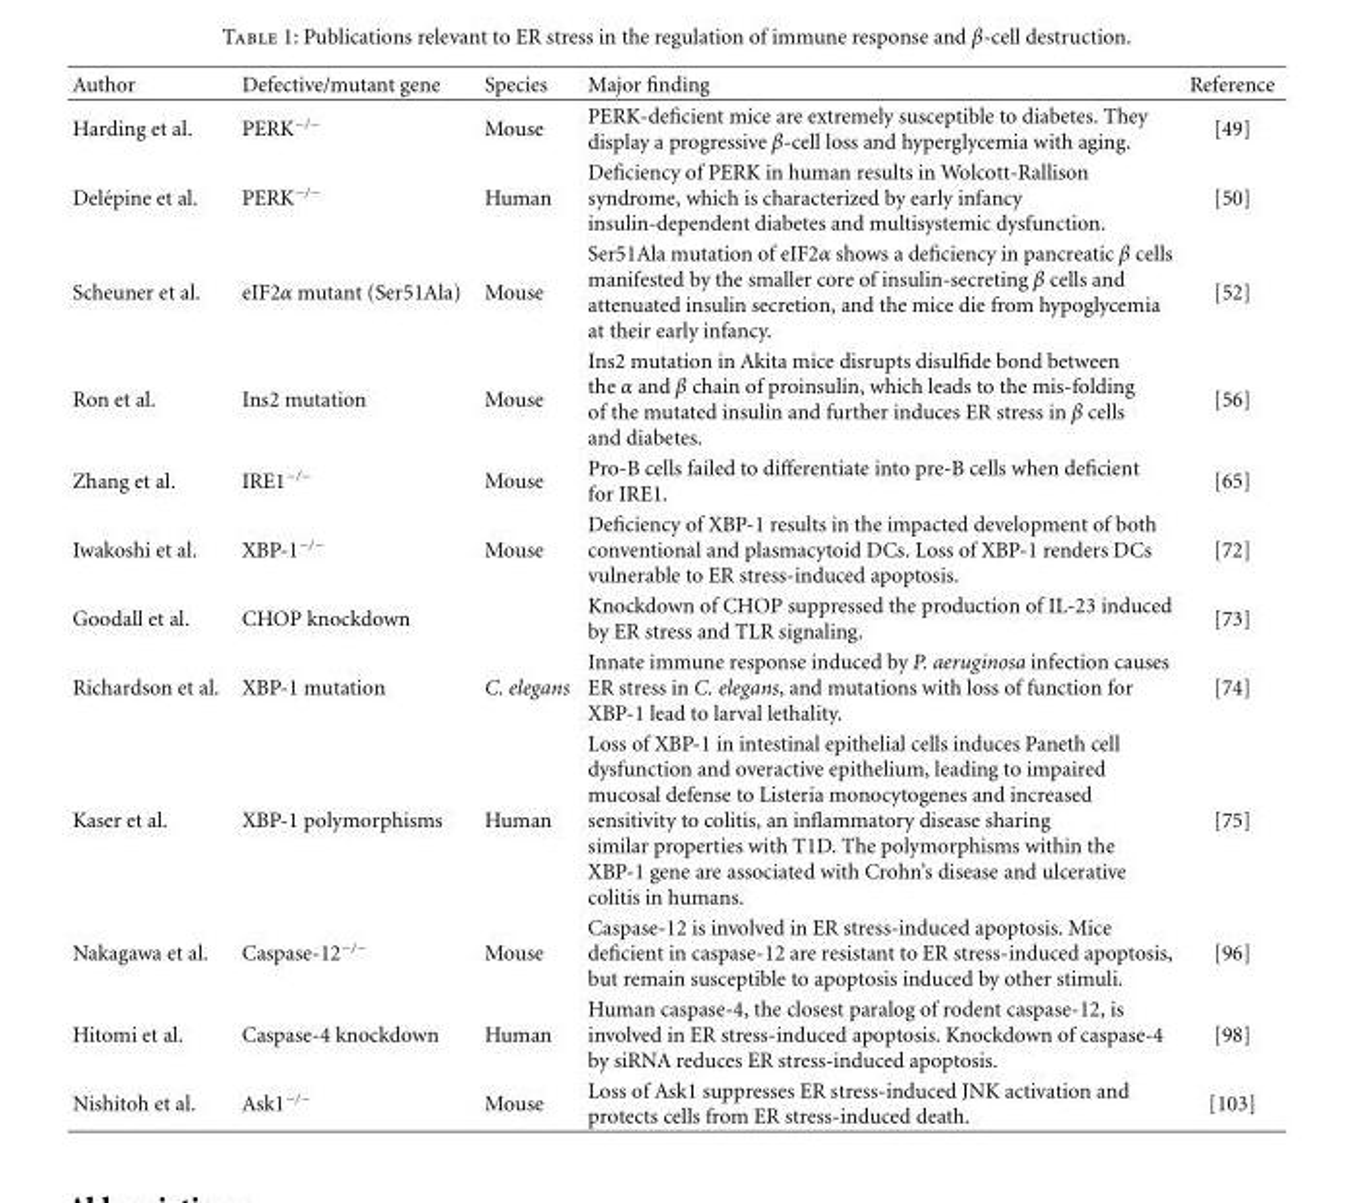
<table><thead><tr><td>Author</td><td>Defective/mutant gene</td><td>Species</td><td>Major finding</td><td>Reference</td></tr></thead><tbody><tr><td>Harding et al.</td><td>PERK<sup>−/−</sup></td><td>Mouse</td><td>PERK-deficient mice are extremely susceptible to diabetes. They display a progressive β-cell loss and hyperglycemia with aging.</td><td>[49]</td></tr><tr><td>Del´epine et al.</td><td>PERK<sup>−/−</sup></td><td>Human</td><td>Deficiency of PERK in human results in Wolcott-Rallison syndrome, which is characterized by early infancy insulin-dependent diabetes and multisystemic dysfunction.</td><td>[50]</td></tr><tr><td>Scheuner et al.</td><td>eIF2α mutant (Ser51Ala)</td><td>Mouse</td><td>Ser51Ala mutation of eIF2α shows a deficiency in pancreatic β cells manifested by the smaller core of insulin-secreting β cells and attenuated insulin secretion, and the mice die from hypoglycemia at their early infancy.</td><td>[52]</td></tr><tr><td>Ron et al.</td><td>Ins2 mutation</td><td>Mouse</td><td>Ins2 mutation in Akita mice disrupts disulfide bond between the α and β chain of proinsulin, which leads to the mis-folding of the mutated insulin and further induces ER stress in β cells and diabetes.</td><td>[56]</td></tr><tr><td>Zhang et al.</td><td>IRE1<sup>−/−</sup></td><td>Mouse</td><td>Pro-B cells failed to differentiate into pre-B cells when deficient for IRE1.</td><td>[65]</td></tr><tr><td>Iwakoshi et al.</td><td>XBP-1<sup>−/−</sup></td><td>Mouse</td><td>Deficiency of XBP-1 results in the impacted development of both conventional and plasmacytoid DCs. Loss of XBP-1 renders DCs vulnerable to ER stress-induced apoptosis.</td><td>[72]</td></tr><tr><td>Goodall et al.</td><td>CHOP knockdown</td><td></td><td>Knockdown of CHOP suppressed the production of IL-23 induced by ER stress and TLR signaling.</td><td>[73]</td></tr><tr><td>Richardson et al.</td><td>XBP-1 mutation</td><td>C. elegans</td><td>Innate immune response induced by P. aeruginosa infection causes ER stress in C. elegans, and mutations with loss of function for XBP-1 lead to larval lethality.</td><td>[74]</td></tr><tr><td>Kaser et al.</td><td>XBP-1 polymorphisms</td><td>Human</td><td>Loss of XBP-1 in intestinal epithelial cells induces Paneth cell dysfunction and overactive epithelium, leading to impaired mucosal defense to Listeria monocytogenes and increased sensitivity to colitis, an inflammatory disease sharing similar properties with T1D. The polymorphisms within the XBP-1 gene are associated with Crohn’s disease and ulcerative colitis in humans.</td><td>[75]</td></tr><tr><td>Nakagawa et al.</td><td>Caspase-12<sup>−/−</sup></td><td>Mouse</td><td>Caspase-12 is involved in ER stress-induced apoptosis. Mice deficient in caspase-12 are resistant to ER stress-induced apoptosis, but remain susceptible to apoptosis induced by other stimuli.</td><td>[96]</td></tr><tr><td>Hitomi et al.</td><td>Caspase-4 knockdown</td><td>Human</td><td>Human caspase-4, the closest paralog of rodent caspase-12, is involved in ER stress-induced apoptosis. Knockdown of caspase-4 by siRNA reduces ER stress-induced apoptosis.</td><td>[98]</td></tr><tr><td>Nishitoh et al.</td><td>Ask1<sup>−/−</sup></td><td>Mouse</td><td>Loss of Ask1 suppresses ER stress-induced JNK activation and protects cells from ER stress-induced death.</td><td>[103]</td></tr></tbody></table>